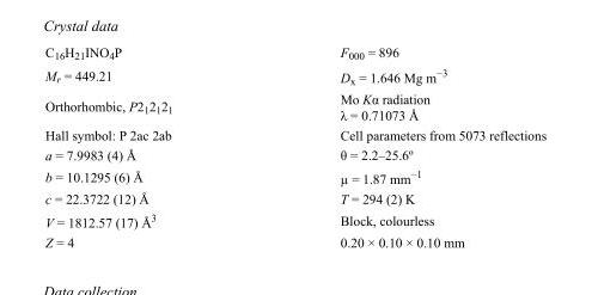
<table><tbody><tr><td>C<sub>16</sub>H<sub>21</sub>INO<sub>4</sub>P</td><td>F<sub>000</sub> = 896</td></tr><tr><td>M<sub>r</sub> = 449.21</td><td>D<sub>x</sub> = 1.646 Mg m<sup>−3</sup></td></tr><tr><td>Orthorhombic, P2<sub>1</sub>2<sub>1</sub>2<sub>1</sub></td><td>Mo Kα radiation λ = 0.71073 Å</td></tr><tr><td>Hall symbol: P 2ac 2ab</td><td>Cell parameters from 5073 reflections</td></tr><tr><td>a = 7.9983 (4) Å</td><td>θ = 2.2–25.6º</td></tr><tr><td>b = 10.1295 (6) Å</td><td>µ = 1.87 mm<sup>−1</sup></td></tr><tr><td>c = 22.3722 (12) Å</td><td>T = 294 (2) K</td></tr><tr><td>V = 1812.57 (17) Å<sup>3</sup></td><td>Block, colourless</td></tr><tr><td>Z = 4</td><td>0.20 × 0.10 × 0.10 mm</td></tr></tbody></table>